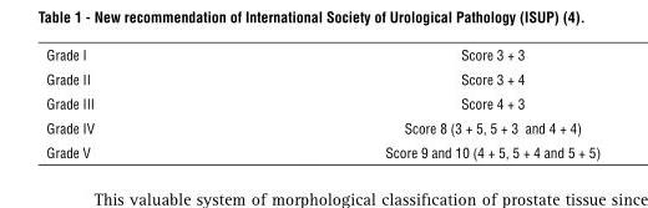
<table><thead><tr><td>Grade I</td><td>Score 3 + 3</td></tr></thead><tbody><tr><td>Grade II</td><td>Score 3 + 4</td></tr><tr><td>Grade III</td><td>Score 4 + 3</td></tr><tr><td>Grade IV</td><td>Score 8 (3 + 5, 5 + 3 and 4 + 4)</td></tr><tr><td>Grade V</td><td>Score 9 and 10 (4 + 5, 5 + 4 and 5 + 5)</td></tr></tbody></table>